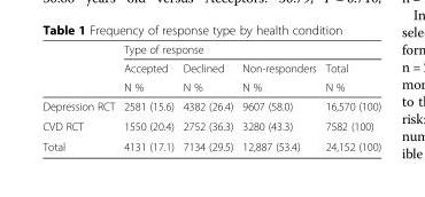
<table><thead><tr><td rowspan="3"></td><td colspan="4">Type of response</td></tr><tr><td rowspan="2">Accepted N %</td><td rowspan="2">Declined N %</td><td rowspan="2">Non-responders N %</td><td rowspan="2">Total N %</td></tr><tr></tr></thead><tbody><tr><td>Depression RCT</td><td>2581 (15.6)</td><td>4382 (26.4)</td><td>9607 (58.0)</td><td>16,570 (100)</td></tr><tr><td>CVD RCT</td><td>1550 (20.4)</td><td>2752 (36.3)</td><td>3280 (43.3)</td><td>7582 (100)</td></tr><tr><td>Total</td><td>4131 (17.1)</td><td>7134 (29.5)</td><td>12,887 (53.4)</td><td>24,152 (100)</td></tr></tbody></table>